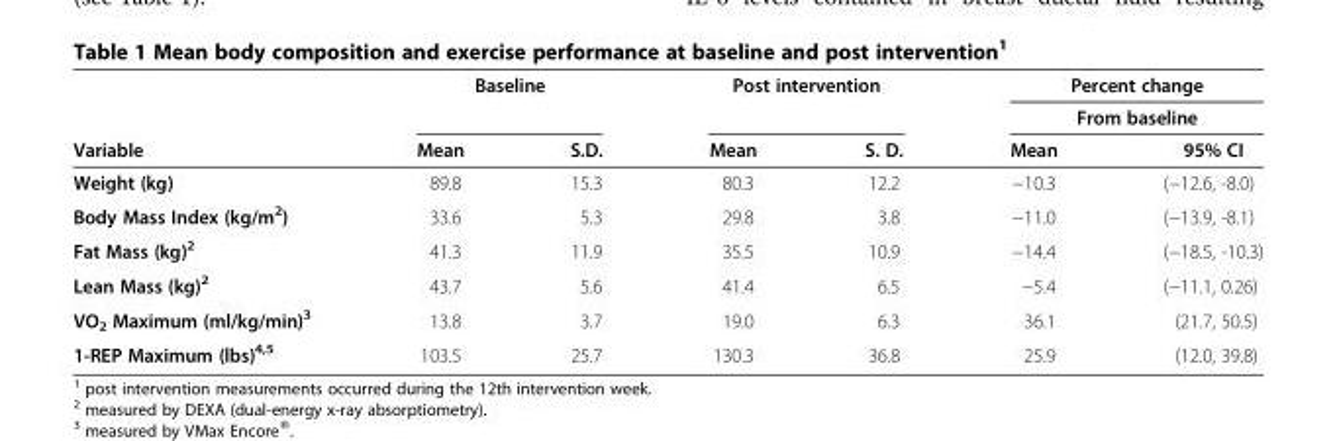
<table><thead><tr><td rowspan="3">Variable</td><td colspan="2">Baseline</td><td colspan="2">Post intervention</td><td rowspan="2" colspan="2">Percent change From baseline</td></tr><tr><td rowspan="2">Mean</td><td rowspan="2">S.D.</td><td rowspan="2">Mean</td><td rowspan="2">S. D.</td></tr><tr><td>Mean</td><td>95% CI</td></tr></thead><tbody><tr><td>Weight (kg)</td><td>89.8</td><td>15.3</td><td>80.3</td><td>12.2</td><td>−10.3</td><td>(−12.6, -8.0)</td></tr><tr><td>Body Mass Index (kg/m<sup>2</sup>)</td><td>33.6</td><td>5.3</td><td>29.8</td><td>3.8</td><td>−11.0</td><td>(−13.9, -8.1)</td></tr><tr><td>Fat Mass (kg)<sup>2</sup></td><td>41.3</td><td>11.9</td><td>35.5</td><td>10.9</td><td>−14.4</td><td>(−18.5, -10.3)</td></tr><tr><td>Lean Mass (kg)<sup>2</sup></td><td>43.7</td><td>5.6</td><td>41.4</td><td>6.5</td><td>−5.4</td><td>(−11.1, 0.26)</td></tr><tr><td>VO<sub>2</sub> Maximum (ml/kg/min)<sup>3</sup></td><td>13.8</td><td>3.7</td><td>19.0</td><td>6.3</td><td>36.1</td><td>(21.7, 50.5)</td></tr><tr><td>1-REP Maximum (lbs)<sup>4,5</sup></td><td>103.5</td><td>25.7</td><td>130.3</td><td>36.8</td><td>25.9</td><td>(12.0, 39.8)</td></tr></tbody></table>